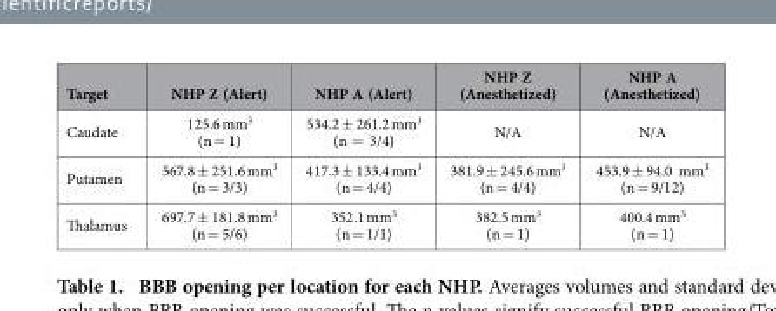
<table><thead><tr><td>Target</td><td>NHP Z (Alert)</td><td>NHP A (Alert)</td><td>NHP Z (Anesthetized)</td><td>NHP A (Anesthetized)</td></tr></thead><tbody><tr><td>Caudate</td><td>125.6 mm<sup>3</sup> (n = 1)</td><td>534.2 ± 261.2 mm<sup>3</sup> (n = 3/4)</td><td>N/A</td><td>N/A</td></tr><tr><td>Putamen</td><td>567.8 ± 251.6 mm<sup>3</sup> (n = 3/3)</td><td>417.3 ± 133.4 mm<sup>3</sup> (n = 4/4)</td><td>381.9 ± 245.6 mm<sup>3</sup> (n = 4/4)</td><td>453.9 ± 94.0 mm<sup>3</sup> (n = 9/12)</td></tr><tr><td>Thalamus</td><td>697.7 ± 181.8 mm<sup>3</sup> (n = 5/6)</td><td>352.1 mm<sup>3</sup> (n = 1/1)</td><td>382.5 mm<sup>3</sup> (n = 1)</td><td>400.4 mm<sup>3</sup> (n = 1)</td></tr></tbody></table>